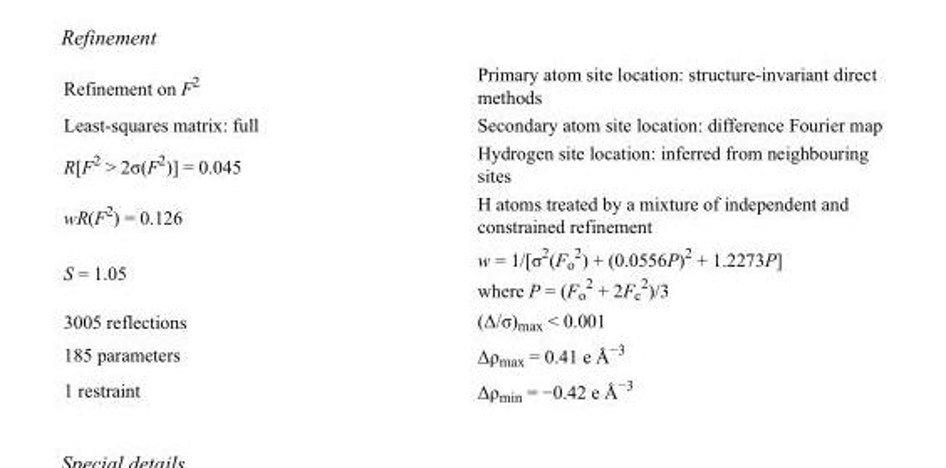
<table><tbody><tr><td>Refinement on F<sup>2</sup></td><td>Primary atom site location: structure-invariant direct methods</td></tr><tr><td>Least-squares matrix: full</td><td>Secondary atom site location: difference Fourier map</td></tr><tr><td>R[F<sup>2</sup> &gt; 2σ(F<sup>2</sup>)] = 0.045</td><td>Hydrogen site location: inferred from neighbouring sites</td></tr><tr><td>wR(F<sup>2</sup>) = 0.126</td><td>H atoms treated by a mixture of independent and constrained refinement</td></tr><tr><td>S = 1.05</td><td>w = 1/[σ<sup>2</sup>(F<sub>o</sub> <sup>2</sup>) + (0.0556P)<sup>2</sup> + 1.2273P] where P = (F<sub>o</sub> <sup>2</sup> + 2F<sub>c</sub> <sup>2</sup>)/3</td></tr><tr><td>3005 reflections</td><td>(Δ/σ)<sub>max</sub> &lt; 0.001</td></tr><tr><td>185 parameters</td><td>Δρ<sub>max</sub> = 0.41 e Å<sup>−3</sup></td></tr><tr><td>1 restraint</td><td>Δρ<sub>min</sub> = −0.42 e Å<sup>−3</sup></td></tr></tbody></table>